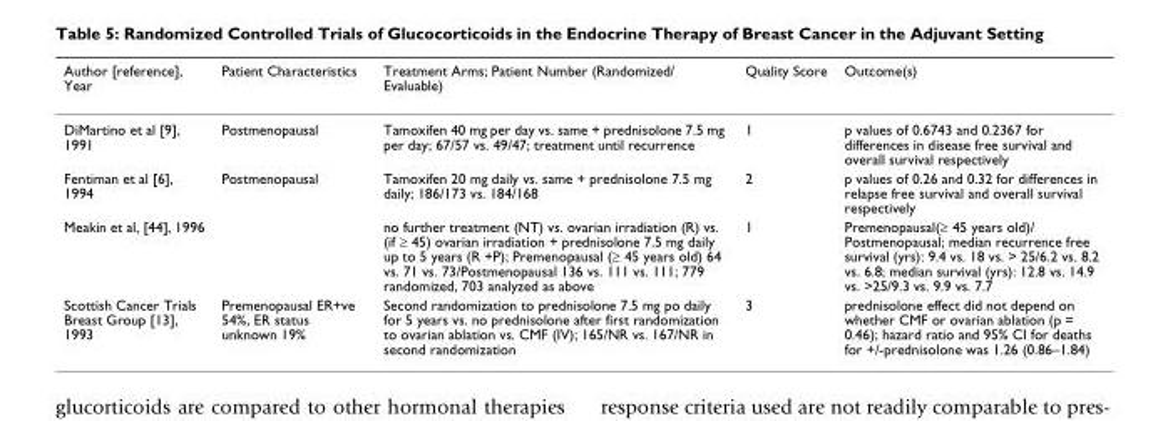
<table><thead><tr><td>Author [reference], Year</td><td>Patient Characteristics</td><td>Treatment Arms; Patient Number (Randomized/ Evaluable)</td><td>Quality Score</td><td>Outcome(s)</td></tr></thead><tbody><tr><td>DiMartino et al [9], 1991</td><td>Postmenopausal</td><td>Tamoxifen 40 mg per day vs. same + prednisolone 7.5 mg per day; 67/57 vs. 49/47; treatment until recurrence</td><td>1</td><td>p values of 0.6743 and 0.2367 for differences in disease free survival and overall survival respectively</td></tr><tr><td>Fentiman et al [6], 1994</td><td>Postmenopausal</td><td>Tamoxifen 20 mg daily vs. same + prednisolone 7.5 mg daily; 186/173 vs. 184/168</td><td>2</td><td>p values of 0.26 and 0.32 for differences in relapse free survival and overall survival respectively</td></tr><tr><td>Meakin et al, [44], 1996</td><td></td><td>no further treatment (NT) vs. ovarian irradiation (R) vs. (if ≥ 45) ovarian irradiation + prednisolone 7.5 mg daily up to 5 years (R +P); Premenopausal (≥ 45 years old) 64 vs. 71 vs. 73/Postmenopausal 136 vs. 111 vs. 111; 779 randomized, 703 analyzed as above</td><td>1</td><td>Premenopausal(≥ 45 years old)/ Postmenopausal; median recurrence free survival (yrs): 9.4 vs. 18 vs. &gt; 25/6.2 vs. 8.2 vs. 6.8; median survival (yrs): 12.8 vs. 14.9 vs. &gt;25/9.3 vs. 9.9 vs. 7.7</td></tr><tr><td>Scottish Cancer Trials Breast Group [13], 1993</td><td>Premenopausal ER+ve 54%, ER status unknown 19%</td><td>Second randomization to prednisolone 7.5 mg po daily for 5 years vs. no prednisolone after first randomization to ovarian ablation vs. CMF (IV); 165/NR vs. 167/NR in second randomization</td><td>3</td><td>prednisolone effect did not depend on whether CMF or ovarian ablation (p = 0.46); hazard ratio and 95% CI for deaths for +/-prednisolone was 1.26 (0.86–1.84)</td></tr></tbody></table>